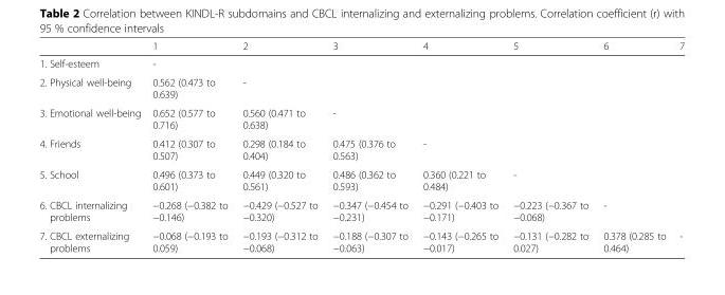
<table><thead><tr><td></td><td>1</td><td>2</td><td>3</td><td>4</td><td>5</td><td>6</td><td>7</td></tr></thead><tbody><tr><td>1. Self-esteem</td><td>-</td><td></td><td></td><td></td><td></td><td></td><td></td></tr><tr><td>2. Physical well-being</td><td>0.562 (0.473 to 0.639)</td><td>-</td><td></td><td></td><td></td><td></td><td></td></tr><tr><td>3. Emotional well-being</td><td>0.652 (0.577 to 0.716)</td><td>0.560 (0.471 to 0.638)</td><td>-</td><td></td><td></td><td></td><td></td></tr><tr><td>4. Friends</td><td>0.412 (0.307 to 0.507)</td><td>0.298 (0.184 to 0.404)</td><td>0.475 (0.376 to 0.563)</td><td>-</td><td></td><td></td><td></td></tr><tr><td>5. School</td><td>0.496 (0.373 to 0.601)</td><td>0.449 (0.320 to 0.561)</td><td>0.486 (0.362 to 0.593)</td><td>0.360 (0.221 to 0.484)</td><td>-</td><td></td><td></td></tr><tr><td>6. CBCL internalizing problems</td><td>−0.268 (−0.382 to −0.146)</td><td>−0.429 (−0.527 to −0.320)</td><td>−0.347 (−0.454 to −0.231)</td><td>−0.291 (−0.403 to −0.171)</td><td>−0.223 (−0.367 to −0.068)</td><td>-</td><td></td></tr><tr><td>7. CBCL externalizing problems</td><td>−0.068 (−0.193 to 0.059)</td><td>−0.193 (−0.312 to −0.068)</td><td>−0.188 (−0.307 to −0.063)</td><td>−0.143 (−0.265 to −0.017)</td><td>−0.131 (−0.282 to 0.027)</td><td>0.378 (0.285 to 0.464)</td><td>-</td></tr></tbody></table>